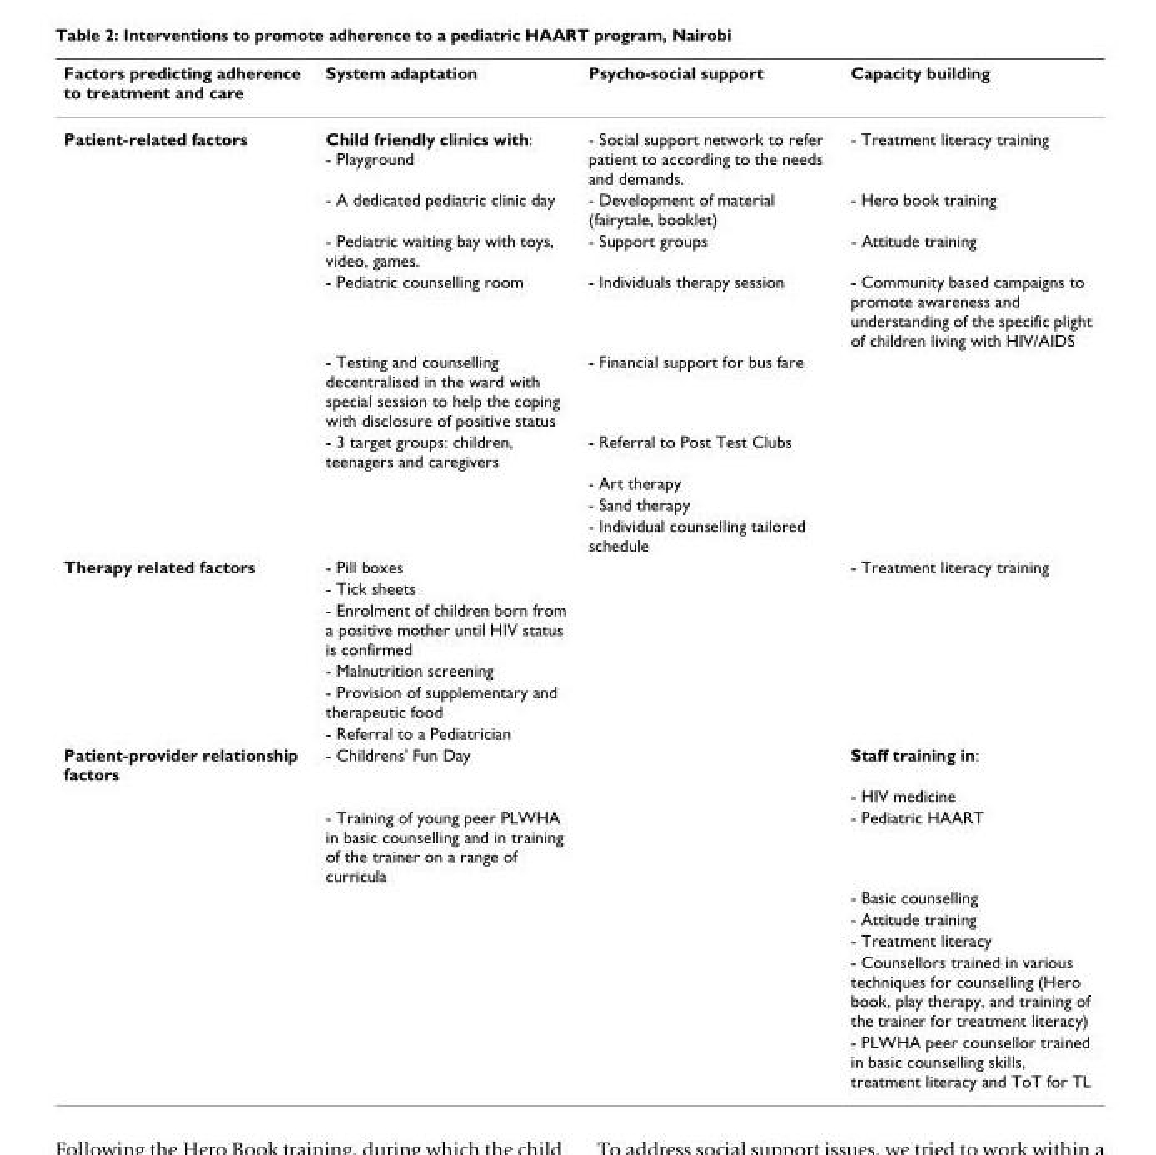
<table><thead><tr><td>Factors predicting adherence to treatment and care</td><td>System adaptation</td><td>Psycho-social support</td><td>Capacity building</td></tr></thead><tbody><tr><td rowspan="9">Patient-related factors</td><td>Child friendly clinics with: - Playground</td><td>- Social support network to refer patient to according to the needs and demands.</td><td>- Treatment literacy training</td></tr><tr><td>- A dedicated pediatric clinic day</td><td>- Development of material (fairytale, booklet)</td><td>- Hero book training</td></tr><tr><td>- Pediatric waiting bay with toys, video, games.</td><td>- Support groups</td><td>- Attitude training</td></tr><tr><td>- Pediatric counselling room</td><td>- Individuals therapy session</td><td>- Community based campaigns to promote awareness and understanding of the specific plight of children living with HIV/AIDS</td></tr><tr><td>- Testing and counselling decentralised in the ward with special session to help the coping with disclosure of positive status</td><td>- Financial support for bus fare</td><td></td></tr><tr><td>- 3 target groups: children, teenagers and caregivers</td><td>- Referral to Post Test Clubs</td><td></td></tr><tr><td></td><td>- Art therapy</td><td></td></tr><tr><td></td><td>- Sand therapy</td><td></td></tr><tr><td></td><td>- Individual counselling tailored schedule</td><td></td></tr><tr><td rowspan="6">Therapy related factors</td><td>- Pill boxes</td><td></td><td>- Treatment literacy training</td></tr><tr><td>- Tick sheets</td><td></td><td></td></tr><tr><td>- Enrolment of children born from a positive mother until HIV status is confirmed</td><td></td><td></td></tr><tr><td>- Malnutrition screening</td><td></td><td></td></tr><tr><td>- Provision of supplementary and therapeutic food</td><td></td><td></td></tr><tr><td>- Referral to a Pediatrician</td><td></td><td></td></tr><tr><td rowspan="8">Patient-provider relationship factors</td><td>- Childrens&#x27; Fun Day</td><td></td><td>Staff training in:</td></tr><tr><td></td><td></td><td>- HIV medicine</td></tr><tr><td>- Training of young peer PLWHA in basic counselling and in training of the trainer on a range of curricula</td><td></td><td>- Pediatric HAART</td></tr><tr><td></td><td></td><td>- Basic counselling</td></tr><tr><td></td><td></td><td>- Attitude training</td></tr><tr><td></td><td></td><td>- Treatment literacy</td></tr><tr><td></td><td></td><td>- Counsellors trained in various techniques for counselling (Hero book, play therapy, and training of the trainer for treatment literacy)</td></tr><tr><td></td><td></td><td>- PLWHA peer counsellor trained in basic counselling skills, treatment literacy and ToT for TL</td></tr></tbody></table>